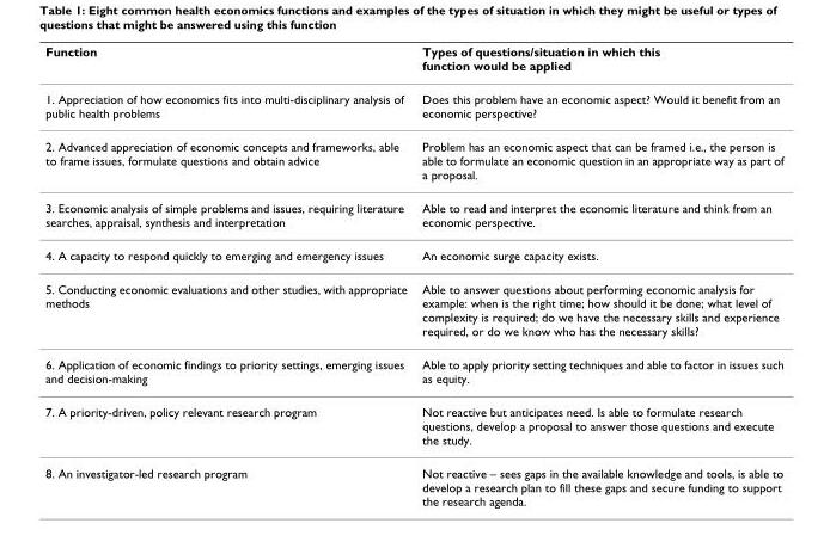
<table><thead><tr><td>Function</td><td>Types of questions/situation in which this function would be applied</td></tr></thead><tbody><tr><td>1. Appreciation of how economics fits into multi-disciplinary analysis of public health problems</td><td>Does this problem have an economic aspect? Would it benefit from an economic perspective?</td></tr><tr><td>2. Advanced appreciation of economic concepts and frameworks, able to frame issues, formulate questions and obtain advice</td><td>Problem has an economic aspect that can be framed i.e., the person is able to formulate an economic question in an appropriate way as part of a proposal.</td></tr><tr><td>3. Economic analysis of simple problems and issues, requiring literature searches, appraisal, synthesis and interpretation</td><td>Able to read and interpret the economic literature and think from an economic perspective.</td></tr><tr><td>4. A capacity to respond quickly to emerging and emergency issues</td><td>An economic surge capacity exists.</td></tr><tr><td>5. Conducting economic evaluations and other studies, with appropriate methods</td><td>Able to answer questions about performing economic analysis for example: when is the right time; how should it be done; what level of complexity is required; do we have the necessary skills and experience required, or do we know who has the necessary skills?</td></tr><tr><td>6. Application of economic findings to priority settings, emerging issues and decision-making</td><td>Able to apply priority setting techniques and able to factor in issues such as equity.</td></tr><tr><td>7. A priority-driven, policy relevant research program</td><td>Not reactive but anticipates need. Is able to formulate research questions, develop a proposal to answer those questions and execute the study.</td></tr><tr><td>8. An investigator-led research program</td><td>Not reactive – sees gaps in the available knowledge and tools, is able to develop a research plan to fill these gaps and secure funding to support the research agenda.</td></tr></tbody></table>